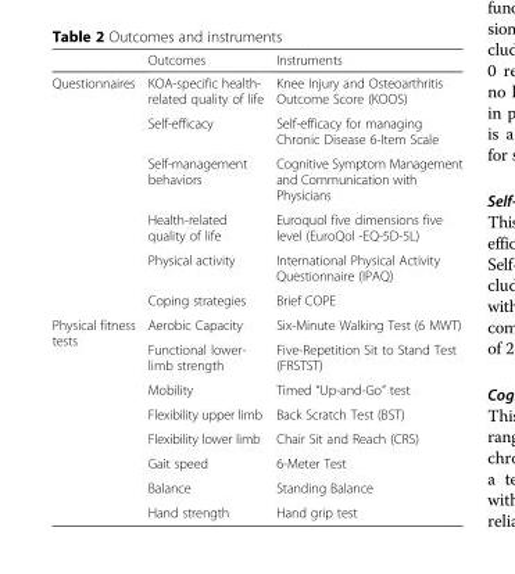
<table><thead><tr><td></td><td>Outcomes</td><td>Instruments</td></tr></thead><tbody><tr><td rowspan="6">Questionnaires</td><td>KOA-specific health- related quality of life</td><td>Knee Injury and Osteoarthritis Outcome Score (KOOS)</td></tr><tr><td>Self-efficacy</td><td>Self-efficacy for managing Chronic Disease 6-Item Scale</td></tr><tr><td>Self-management behaviors</td><td>Cognitive Symptom Management and Communication with Physicians</td></tr><tr><td>Health-related quality of life</td><td>Euroquol five dimensions five level (EuroQol -EQ-5D-5L)</td></tr><tr><td>Physical activity</td><td>International Physical Activity Questionnaire (IPAQ)</td></tr><tr><td>Coping strategies</td><td>Brief COPE</td></tr><tr><td rowspan="8">Physical fitness tests</td><td>Aerobic Capacity</td><td>Six-Minute Walking Test (6 MWT)</td></tr><tr><td>Functional lower- limb strength</td><td>Five-Repetition Sit to Stand Test (FRSTST)</td></tr><tr><td>Mobility</td><td>Timed “Up-and-Go” test</td></tr><tr><td>Flexibility upper limb</td><td>Back Scratch Test (BST)</td></tr><tr><td>Flexibility lower limb</td><td>Chair Sit and Reach (CRS)</td></tr><tr><td>Gait speed</td><td>6-Meter Test</td></tr><tr><td>Balance</td><td>Standing Balance</td></tr><tr><td>Hand strength</td><td>Hand grip test</td></tr></tbody></table>